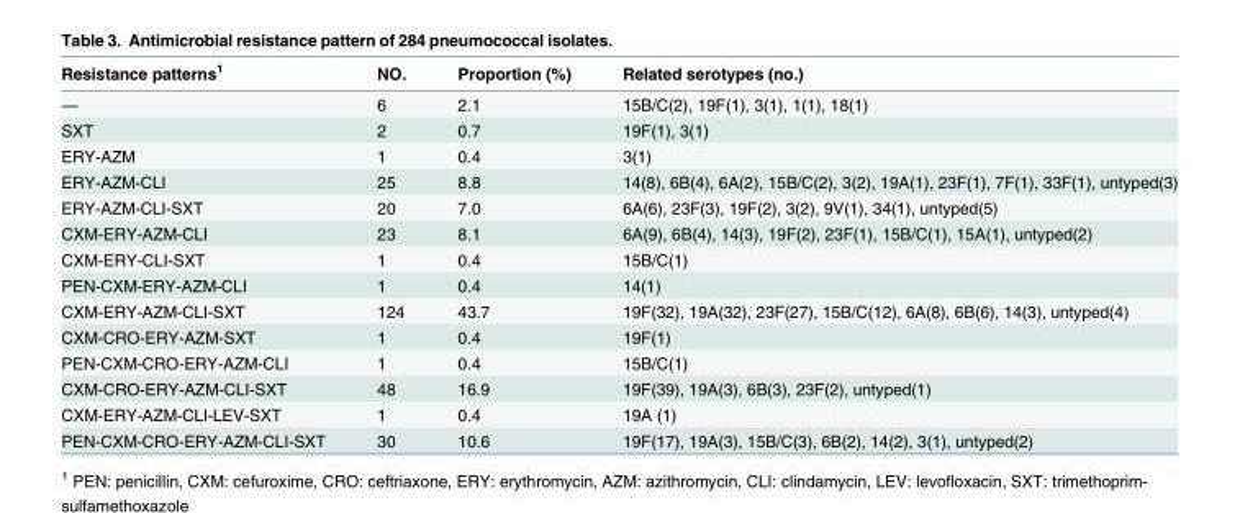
<table><thead><tr><td>Resistance patterns<sup>1</sup></td><td>NO.</td><td>Proportion (%)</td><td>Related serotypes (no.)</td></tr></thead><tbody><tr><td>—</td><td>6</td><td>2.1</td><td>15B/C(2), 19F(1), 3(1), 1(1), 18(1)</td></tr><tr><td>SXT</td><td>2</td><td>0.7</td><td>19F(1), 3(1)</td></tr><tr><td>ERY-AZM</td><td>1</td><td>0.4</td><td>3(1)</td></tr><tr><td>ERY-AZM-CLI</td><td>25</td><td>8.8</td><td>14(8), 6B(4), 6A(2), 15B/C(2), 3(2), 19A(1), 23F(1), 7F(1), 33F(1), untyped(3)</td></tr><tr><td>ERY-AZM-CLI-SXT</td><td>20</td><td>7.0</td><td>6A(6), 23F(3), 19F(2), 3(2), 9V(1), 34(1), untyped(5)</td></tr><tr><td>CXM-ERY-AZM-CLI</td><td>23</td><td>8.1</td><td>6A(9), 6B(4), 14(3), 19F(2), 23F(1), 15B/C(1), 15A(1), untyped(2)</td></tr><tr><td>CXM-ERY-CLI-SXT</td><td>1</td><td>0.4</td><td>15B/C(1)</td></tr><tr><td>PEN-CXM-ERY-AZM-CLI</td><td>1</td><td>0.4</td><td>14(1)</td></tr><tr><td>CXM-ERY-AZM-CLI-SXT</td><td>124</td><td>43.7</td><td>19F(32), 19A(32), 23F(27), 15B/C(12), 6A(8), 6B(6), 14(3), untyped(4)</td></tr><tr><td>CXM-CRO-ERY-AZM-SXT</td><td>1</td><td>0.4</td><td>19F(1)</td></tr><tr><td>PEN-CXM-CRO-ERY-AZM-CLI</td><td>1</td><td>0.4</td><td>15B/C(1)</td></tr><tr><td>CXM-CRO-ERY-AZM-CLI-SXT</td><td>48</td><td>16.9</td><td>19F(39), 19A(3), 6B(3), 23F(2), untyped(1)</td></tr><tr><td>CXM-ERY-AZM-CLI-LEV-SXT</td><td>1</td><td>0.4</td><td>19A (1)</td></tr><tr><td>PEN-CXM-CRO-ERY-AZM-CLI-SXT</td><td>30</td><td>10.6</td><td>19F(17), 19A(3), 15B/C(3), 6B(2), 14(2), 3(1), untyped(2)</td></tr></tbody></table>